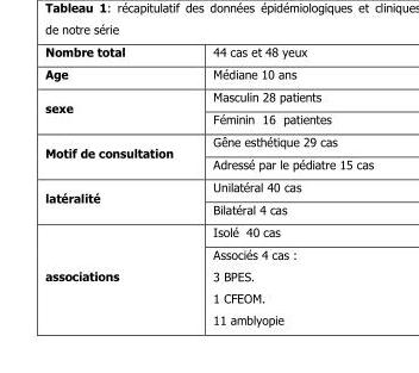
<table><tbody><tr><td>Nombre total</td><td>44 cas et 48 yeux</td></tr><tr><td>Age</td><td>Médiane 10 ans</td></tr><tr><td rowspan="2">sexe</td><td>Masculin 28 patients</td></tr><tr><td>Féminin 16 patientes</td></tr><tr><td rowspan="2">Motif de consultation</td><td>Gêne esthétique 29 cas</td></tr><tr><td>Adressé par le pédiatre 15 cas</td></tr><tr><td rowspan="2">latéralité</td><td>Unilatéral 40 cas</td></tr><tr><td>Bilatéral 4 cas</td></tr><tr><td rowspan="2">associations</td><td>Isolé 40 cas</td></tr><tr><td>Associés 4 cas : 3 BPES. 1 CFEOM. 11 amblyopie</td></tr></tbody></table>